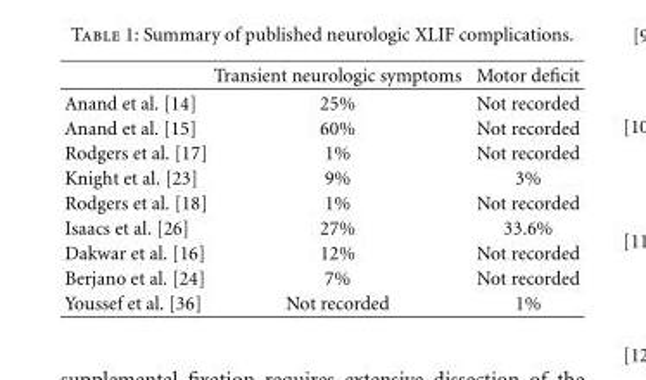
<table><thead><tr><td></td><td>Transient neurologic symptoms</td><td>Motor deficit</td></tr></thead><tbody><tr><td>Anand et al. [14]</td><td>25%</td><td>Not recorded</td></tr><tr><td>Anand et al. [15]</td><td>60%</td><td>Not recorded</td></tr><tr><td>Rodgers et al. [17]</td><td>1%</td><td>Not recorded</td></tr><tr><td>Knight et al. [23]</td><td>9%</td><td>3%</td></tr><tr><td>Rodgers et al. [18]</td><td>1%</td><td>Not recorded</td></tr><tr><td>Isaacs et al. [26]</td><td>27%</td><td>33.6%</td></tr><tr><td>Dakwar et al. [16]</td><td>12%</td><td>Not recorded</td></tr><tr><td>Berjano et al. [24]</td><td>7%</td><td>Not recorded</td></tr><tr><td>Youssef et al. [36]</td><td>Not recorded</td><td>1%</td></tr></tbody></table>